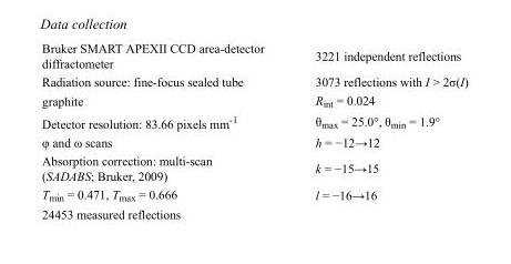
<table><tbody><tr><td>Bruker SMART APEXII CCD area-detector diffractometer</td><td>3221 independent reflections</td></tr><tr><td>Radiation source: fine-focus sealed tube</td><td>3073 reflections with I &gt; 2σ(I)</td></tr><tr><td>graphite</td><td>R<sub>int</sub> = 0.024</td></tr><tr><td>Detector resolution: 83.66 pixels mm<sup>-1</sup></td><td>θ<sub>max</sub> = 25.0°, θ<sub>min</sub> = 1.9°</td></tr><tr><td>φ and ω scans</td><td>h = −12→12</td></tr><tr><td>Absorption correction: multi-scan (SADABS; Bruker, 2009)</td><td>k = −15→15</td></tr><tr><td>T<sub>min</sub> = 0.471, T<sub>max</sub> = 0.666</td><td>l = −16→16</td></tr><tr><td>24453 measured reflections</td><td></td></tr></tbody></table>